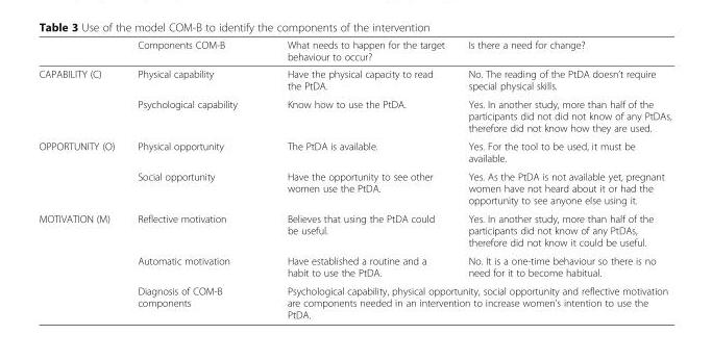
<table><thead><tr><td></td><td>Components COM-B</td><td>What needs to happen for the target behaviour to occur?</td><td>Is there a need for change?</td></tr></thead><tbody><tr><td rowspan="2">CAPABILITY (C)</td><td>Physical capability</td><td>Have the physical capacity to read the PtDA.</td><td>No. The reading of the PtDA doesn’t require special physical skills.</td></tr><tr><td>Psychological capability</td><td>Know how to use the PtDA.</td><td>Yes. In another study, more than half of the participants did not did not know of any PtDAs, therefore did not know how they are used.</td></tr><tr><td rowspan="2">OPPORTUNITY (O)</td><td>Physical opportunity</td><td>The PtDA is available.</td><td>Yes. For the tool to be used, it must be available.</td></tr><tr><td>Social opportunity</td><td>Have the opportunity to see other women use the PtDA.</td><td>Yes. As the PtDA is not available yet, pregnant women have not heard about it or had the opportunity to see anyone else using it.</td></tr><tr><td rowspan="3">MOTIVATION (M)</td><td>Reflective motivation</td><td>Believes that using the PtDA could be useful.</td><td>Yes. In another study, more than half of the participants did not know of any PtDAs, therefore did not know it could be useful.</td></tr><tr><td>Automatic motivation</td><td>Have established a routine and a habit to use the PtDA.</td><td>No. It is a one-time behaviour so there is no need for it to become habitual.</td></tr><tr><td>Diagnosis of COM-B components</td><td colspan="2">Psychological capability, physical opportunity, social opportunity and reflective motivation are components needed in an intervention to increase women’s intention to use the PtDA.</td></tr></tbody></table>